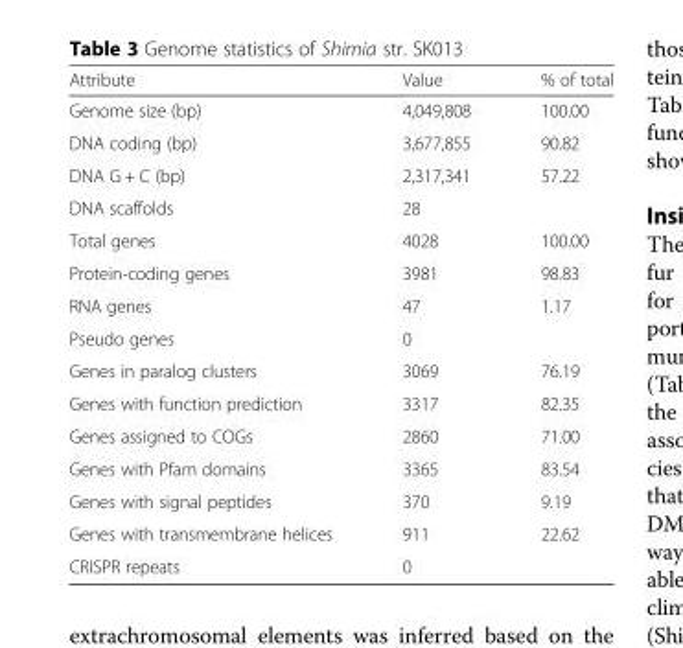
<table><thead><tr><td>Attribute</td><td>Value</td><td>% of total</td></tr></thead><tbody><tr><td>Genome size (bp)</td><td>4,049,808</td><td>100.00</td></tr><tr><td>DNA coding (bp)</td><td>3,677,855</td><td>90.82</td></tr><tr><td>DNA G + C (bp)</td><td>2,317,341</td><td>57.22</td></tr><tr><td>DNA scaffolds</td><td>28</td><td></td></tr><tr><td>Total genes</td><td>4028</td><td>100.00</td></tr><tr><td>Protein-coding genes</td><td>3981</td><td>98.83</td></tr><tr><td>RNA genes</td><td>47</td><td>1.17</td></tr><tr><td>Pseudo genes</td><td>0</td><td></td></tr><tr><td>Genes in paralog clusters</td><td>3069</td><td>76.19</td></tr><tr><td>Genes with function prediction</td><td>3317</td><td>82.35</td></tr><tr><td>Genes assigned to COGs</td><td>2860</td><td>71.00</td></tr><tr><td>Genes with Pfam domains</td><td>3365</td><td>83.54</td></tr><tr><td>Genes with signal peptides</td><td>370</td><td>9.19</td></tr><tr><td>Genes with transmembrane helices</td><td>911</td><td>22.62</td></tr><tr><td>CRISPR repeats</td><td>0</td><td></td></tr></tbody></table>